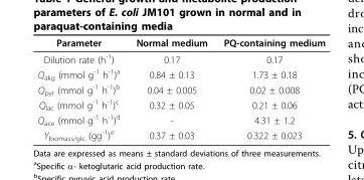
<table><thead><tr><td>Parameter</td><td>Normal medium</td><td>PQ-containing medium</td></tr></thead><tbody><tr><td>Dilution rate (h<sup>-1</sup>)</td><td>0.17</td><td>0.17</td></tr><tr><td>Q<sub>akg</sub> (mmol g<sup>-1</sup> h<sup>-1</sup>)<sup>a</sup></td><td>0.84 ± 0.13</td><td>1.73 ± 0.18</td></tr><tr><td>Q<sub>pyr</sub> (mmol g<sup>-1</sup> h<sup>-1</sup>)<sup>b</sup></td><td>0.04 ± 0.005</td><td>0.02 ± 0.008</td></tr><tr><td>Q<sub>lac</sub> (mmol g<sup>-1</sup> h<sup>-1</sup>)<sup>c</sup></td><td>0.32 ± 0.05</td><td>0.21 ± 0.06</td></tr><tr><td>Q<sub>ace</sub> (mmol g<sup>-1</sup> h<sup>-1</sup>)<sup>d</sup></td><td>-</td><td>4.31 ± 1.2</td></tr><tr><td>Y<sub>biomass/glc</sub> (gg<sup>-1</sup>)<sup>e</sup></td><td>0.37 ± 0.03</td><td>0.322 ± 0.023</td></tr></tbody></table>